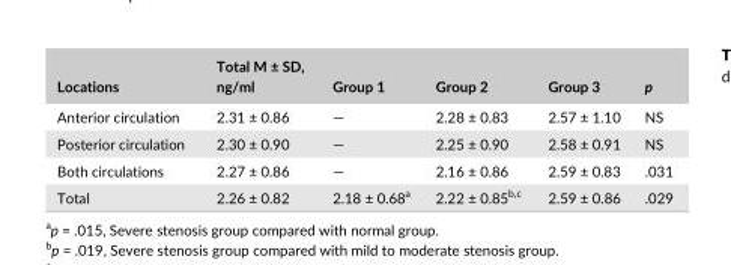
<table><thead><tr><td>Locations</td><td>Total M ± SD, ng/ml</td><td>Group 1</td><td>Group 2</td><td>Group 3</td><td>p</td></tr></thead><tbody><tr><td>Anterior circulation</td><td>2.31 ± 0.86</td><td>—</td><td>2.28 ± 0.83</td><td>2.57 ± 1.10</td><td>NS</td></tr><tr><td>Posterior circulation</td><td>2.30 ± 0.90</td><td>—</td><td>2.25 ± 0.90</td><td>2.58 ± 0.91</td><td>NS</td></tr><tr><td>Both circulations</td><td>2.27 ± 0.86</td><td>—</td><td>2.16 ± 0.86</td><td>2.59 ± 0.83</td><td>.031</td></tr><tr><td>Total</td><td>2.26 ± 0.82</td><td>2.18 ± 0.68<sup>a</sup></td><td>2.22 ± 0.85<sup>b,</sup>c</td><td>2.59 ± 0.86</td><td>.029</td></tr></tbody></table>